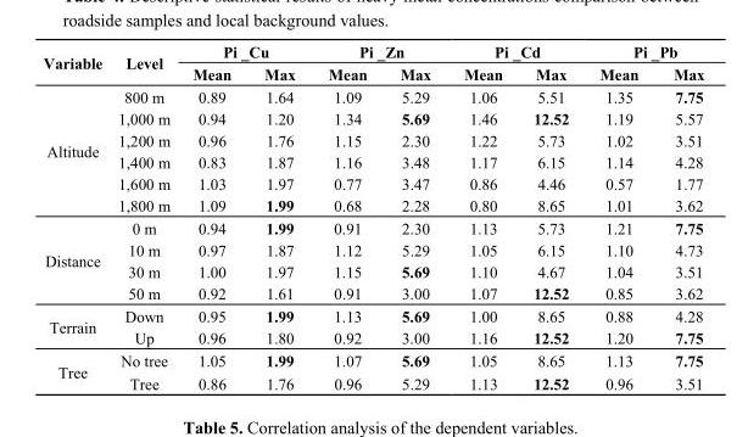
<table><thead><tr><td rowspan="2">Variable</td><td rowspan="2">Level</td><td colspan="2">Pi _Cu</td><td colspan="2">Pi _Zn</td><td colspan="2">Pi _Cd</td><td colspan="2">Pi _Pb</td></tr><tr><td>Mean</td><td>Max</td><td>Mean</td><td>Max</td><td>Mean</td><td>Max</td><td>Mean</td><td>Max</td></tr></thead><tbody><tr><td rowspan="6">Altitude</td><td>800 m</td><td>0.89</td><td>1.64</td><td>1.09</td><td>5.29</td><td>1.06</td><td>5.51</td><td>1.35</td><td>7.75</td></tr><tr><td>1,000 m</td><td>0.94</td><td>1.20</td><td>1.34</td><td>5.69</td><td>1.46</td><td>12.52</td><td>1.19</td><td>5.57</td></tr><tr><td>1,200 m</td><td>0.96</td><td>1.76</td><td>1.15</td><td>2.30</td><td>1.22</td><td>5.73</td><td>1.02</td><td>3.51</td></tr><tr><td>1,400 m</td><td>0.83</td><td>1.87</td><td>1.16</td><td>3.48</td><td>1.17</td><td>6.15</td><td>1.14</td><td>4.28</td></tr><tr><td>1,600 m</td><td>1.03</td><td>1.97</td><td>0.77</td><td>3.47</td><td>0.86</td><td>4.46</td><td>0.57</td><td>1.77</td></tr><tr><td>1,800 m</td><td>1.09</td><td>1.99</td><td>0.68</td><td>2.28</td><td>0.80</td><td>8.65</td><td>1.01</td><td>3.62</td></tr><tr><td rowspan="4">Distance</td><td>0 m</td><td>0.94</td><td>1.99</td><td>0.91</td><td>2.30</td><td>1.13</td><td>5.73</td><td>1.21</td><td>7.75</td></tr><tr><td>10 m</td><td>0.97</td><td>1.87</td><td>1.12</td><td>5.29</td><td>1.05</td><td>6.15</td><td>1.10</td><td>4.73</td></tr><tr><td>30 m</td><td>1.00</td><td>1.97</td><td>1.15</td><td>5.69</td><td>1.10</td><td>4.67</td><td>1.04</td><td>3.51</td></tr><tr><td>50 m</td><td>0.92</td><td>1.61</td><td>0.91</td><td>3.00</td><td>1.07</td><td>12.52</td><td>0.85</td><td>3.62</td></tr><tr><td rowspan="2">Terrain</td><td>Down</td><td>0.95</td><td>1.99</td><td>1.13</td><td>5.69</td><td>1.00</td><td>8.65</td><td>0.88</td><td>4.28</td></tr><tr><td>Up</td><td>0.96</td><td>1.80</td><td>0.92</td><td>3.00</td><td>1.16</td><td>12.52</td><td>1.20</td><td>7.75</td></tr><tr><td rowspan="2">Tree</td><td>No tree</td><td>1.05</td><td>1.99</td><td>1.07</td><td>5.69</td><td>1.05</td><td>8.65</td><td>1.13</td><td>7.75</td></tr><tr><td>Tree</td><td>0.86</td><td>1.76</td><td>0.96</td><td>5.29</td><td>1.13</td><td>12.52</td><td>0.96</td><td>3.51</td></tr></tbody></table>